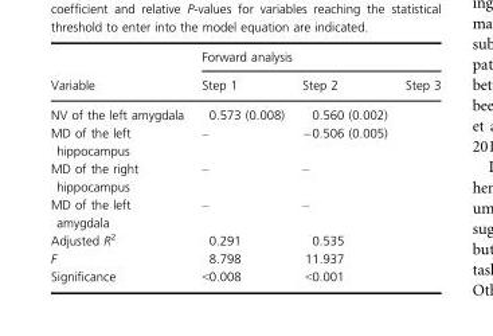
<table><thead><tr><td rowspan="2">Variable</td><td colspan="3">Forward analysis</td></tr><tr><td>Step 1</td><td>Step 2</td><td>Step 3</td></tr></thead><tbody><tr><td>NV of the left amygdala</td><td>0.573 (0.008)</td><td>0.560 (0.002)</td><td></td></tr><tr><td>MD of the left hippocampus</td><td>–</td><td>−0.506 (0.005)</td><td></td></tr><tr><td>MD of the right hippocampus</td><td>–</td><td>–</td><td></td></tr><tr><td>MD of the left amygdala</td><td>–</td><td>–</td><td></td></tr><tr><td>Adjusted R<sup>2</sup></td><td>0.291</td><td>0.535</td><td></td></tr><tr><td>F</td><td>8.798</td><td>11.937</td><td></td></tr><tr><td>Significance</td><td>&lt;0.008</td><td>&lt;0.001</td><td></td></tr></tbody></table>